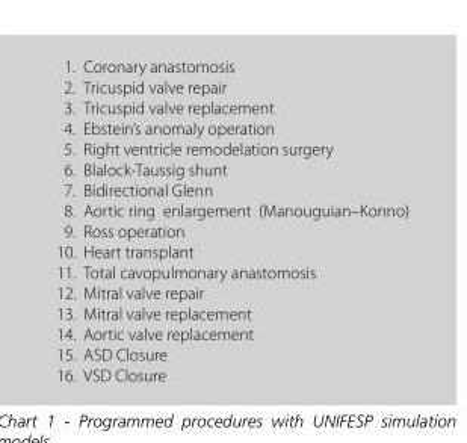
<table><tbody><tr><td>1.</td><td>Coronary anastomosis</td></tr><tr><td>2.</td><td>Tricuspid valve repair</td></tr><tr><td>3.</td><td>Tricuspid valve replacement</td></tr><tr><td>4.</td><td>Ebstein’s anomaly operation</td></tr><tr><td>5.</td><td>Right ventricle remodelation surgery</td></tr><tr><td>6.</td><td>Blalock-Taussig shunt</td></tr><tr><td>7.</td><td>Bidirectional Glenn</td></tr><tr><td>8.</td><td>Aortic ring enlargement (Manouguian–Konno)</td></tr><tr><td>9.</td><td>Ross operation</td></tr><tr><td>10.</td><td>Heart transplant</td></tr><tr><td>11.</td><td>Total cavopulmonary anastomosis</td></tr><tr><td>12.</td><td>Mitral valve repair</td></tr><tr><td>13.</td><td>Mitral valve replacement</td></tr><tr><td>14.</td><td>Aortic valve replacement</td></tr><tr><td>15.</td><td>ASD Closure</td></tr><tr><td>16.</td><td>VSD Closure</td></tr></tbody></table>